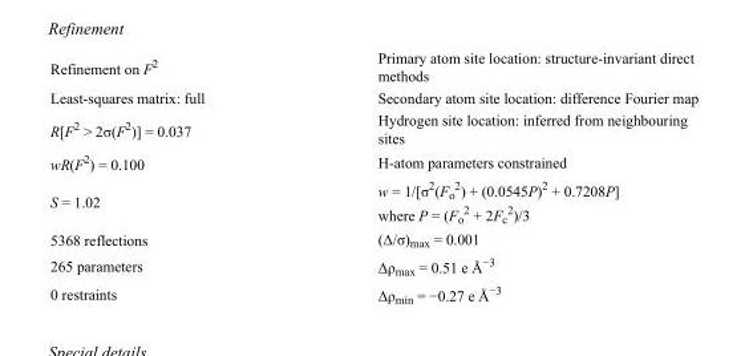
<table><tbody><tr><td>Refinement on F<sup>2</sup></td><td>Primary atom site location: structure-invariant direct methods</td></tr><tr><td>Least-squares matrix: full</td><td>Secondary atom site location: difference Fourier map</td></tr><tr><td>R[F<sup>2</sup> &gt; 2σ(F<sup>2</sup>)] = 0.037</td><td>Hydrogen site location: inferred from neighbouring sites</td></tr><tr><td>wR(F<sup>2</sup>) = 0.100</td><td>H-atom parameters constrained</td></tr><tr><td>S = 1.02</td><td>w = 1/[σ<sup>2</sup>(F<sub>o</sub> <sup>2</sup>) + (0.0545P)<sup>2</sup> + 0.7208P] where P = (F<sub>o</sub> <sup>2</sup> + 2F<sub>c</sub> <sup>2</sup>)/3</td></tr><tr><td>5368 reflections</td><td>(Δ/σ)<sub>max</sub> = 0.001</td></tr><tr><td>265 parameters</td><td>Δρ<sub>max</sub> = 0.51 e Å<sup>−3</sup></td></tr><tr><td>0 restraints</td><td>Δρ<sub>min</sub> = −0.27 e Å<sup>−3</sup></td></tr></tbody></table>